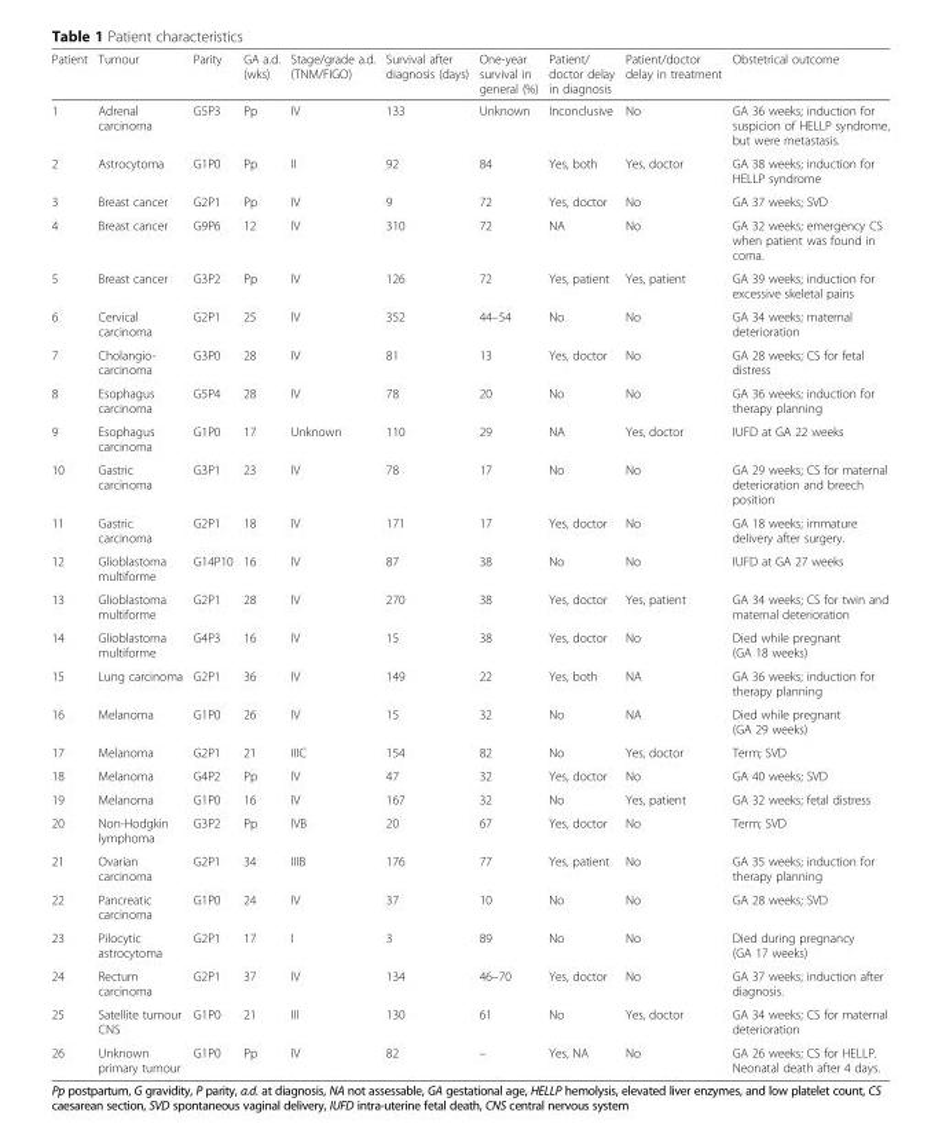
<table><thead><tr><td>Patient</td><td>Tumour</td><td>Parity</td><td>GA a.d. (wks)</td><td>Stage/grade a.d. (TNM/FIGO)</td><td>Survival after diagnosis (days)</td><td>One-year survival in general (%)</td><td>Patient/ doctor delay in diagnosis</td><td>Patient/doctor delay in treatment</td><td>Obstetrical outcome</td></tr></thead><tbody><tr><td>1</td><td>Adrenal carcinoma</td><td>G5P3</td><td>Pp</td><td>IV</td><td>133</td><td>Unknown</td><td>Inconclusive</td><td>No</td><td>GA 36 weeks; induction for suspicion of HELLP syndrome, but were metastasis.</td></tr><tr><td>2</td><td>Astrocytoma</td><td>G1P0</td><td>Pp</td><td>II</td><td>92</td><td>84</td><td>Yes, both</td><td>Yes, doctor</td><td>GA 38 weeks; induction for HELLP syndrome</td></tr><tr><td>3</td><td>Breast cancer</td><td>G2P1</td><td>Pp</td><td>IV</td><td>9</td><td>72</td><td>Yes, doctor</td><td>No</td><td>GA 37 weeks; SVD</td></tr><tr><td>4</td><td>Breast cancer</td><td>G9P6</td><td>12</td><td>IV</td><td>310</td><td>72</td><td>NA</td><td>No</td><td>GA 32 weeks; emergency CS when patient was found in coma.</td></tr><tr><td>5</td><td>Breast cancer</td><td>G3P2</td><td>Pp</td><td>IV</td><td>126</td><td>72</td><td>Yes, patient</td><td>Yes, patient</td><td>GA 39 weeks; induction for excessive skeletal pains</td></tr><tr><td>6</td><td>Cervical carcinoma</td><td>G2P1</td><td>25</td><td>IV</td><td>352</td><td>44–54</td><td>No</td><td>No</td><td>GA 34 weeks; maternal deterioration</td></tr><tr><td>7</td><td>Cholangio- carcinoma</td><td>G3P0</td><td>28</td><td>IV</td><td>81</td><td>13</td><td>Yes, doctor</td><td>No</td><td>GA 28 weeks; CS for fetal distress</td></tr><tr><td>8</td><td>Esophagus carcinoma</td><td>G5P4</td><td>28</td><td>IV</td><td>78</td><td>20</td><td>No</td><td>No</td><td>GA 36 weeks; induction for therapy planning</td></tr><tr><td>9</td><td>Esophagus carcinoma</td><td>G1P0</td><td>17</td><td>Unknown</td><td>110</td><td>29</td><td>NA</td><td>Yes, doctor</td><td>IUFD at GA 22 weeks</td></tr><tr><td>10</td><td>Gastric carcinoma</td><td>G3P1</td><td>23</td><td>IV</td><td>78</td><td>17</td><td>No</td><td>No</td><td>GA 29 weeks; CS for maternal deterioration and breech position</td></tr><tr><td>11</td><td>Gastric carcinoma</td><td>G2P1</td><td>18</td><td>IV</td><td>171</td><td>17</td><td>Yes, doctor</td><td>No</td><td>GA 18 weeks; immature delivery after surgery.</td></tr><tr><td>12</td><td>Glioblastoma multiforme</td><td>G14P10</td><td>16</td><td>IV</td><td>87</td><td>38</td><td>No</td><td>No</td><td>IUFD at GA 27 weeks</td></tr><tr><td>13</td><td>Glioblastoma multiforme</td><td>G2P1</td><td>28</td><td>IV</td><td>270</td><td>38</td><td>Yes, doctor</td><td>Yes, patient</td><td>GA 34 weeks; CS for twin and maternal deterioration</td></tr><tr><td>14</td><td>Glioblastoma multiforme</td><td>G4P3</td><td>16</td><td>IV</td><td>15</td><td>38</td><td>Yes, doctor</td><td>No</td><td>Died while pregnant (GA 18 weeks)</td></tr><tr><td>15</td><td>Lung carcinoma</td><td>G2P1</td><td>36</td><td>IV</td><td>149</td><td>22</td><td>Yes, both</td><td>NA</td><td>GA 36 weeks; induction for therapy planning</td></tr><tr><td>16</td><td>Melanoma</td><td>G1P0</td><td>26</td><td>IV</td><td>15</td><td>32</td><td>No</td><td>NA</td><td>Died while pregnant (GA 29 weeks)</td></tr><tr><td>17</td><td>Melanoma</td><td>G2P1</td><td>21</td><td>IIIC</td><td>154</td><td>82</td><td>No</td><td>Yes, doctor</td><td>Term; SVD</td></tr><tr><td>18</td><td>Melanoma</td><td>G4P2</td><td>Pp</td><td>IV</td><td>47</td><td>32</td><td>Yes, doctor</td><td>No</td><td>GA 40 weeks; SVD</td></tr><tr><td>19</td><td>Melanoma</td><td>G1P0</td><td>16</td><td>IV</td><td>167</td><td>32</td><td>No</td><td>Yes, patient</td><td>GA 32 weeks; fetal distress</td></tr><tr><td>20</td><td>Non-Hodgkin lymphoma</td><td>G3P2</td><td>Pp</td><td>IVB</td><td>20</td><td>67</td><td>Yes, doctor</td><td>No</td><td>Term; SVD</td></tr><tr><td>21</td><td>Ovarian carcinoma</td><td>G2P1</td><td>34</td><td>IIIB</td><td>176</td><td>77</td><td>Yes, patient</td><td>No</td><td>GA 35 weeks; induction for therapy planning</td></tr><tr><td>22</td><td>Pancreatic carcinoma</td><td>G1P0</td><td>24</td><td>IV</td><td>37</td><td>10</td><td>No</td><td>No</td><td>GA 28 weeks; SVD</td></tr><tr><td>23</td><td>Pilocytic astrocytoma</td><td>G2P1</td><td>17</td><td>I</td><td>3</td><td>89</td><td>No</td><td>No</td><td>Died during pregnancy (GA 17 weeks)</td></tr><tr><td>24</td><td>Rectum carcinoma</td><td>G2P1</td><td>37</td><td>IV</td><td>134</td><td>46–70</td><td>Yes, doctor</td><td>No</td><td>GA 37 weeks; induction after diagnosis.</td></tr><tr><td>25</td><td>Satellite tumour CNS</td><td>G1P0</td><td>21</td><td>III</td><td>130</td><td>61</td><td>No</td><td>Yes, doctor</td><td>GA 34 weeks; CS for maternal deterioration</td></tr><tr><td>26</td><td>Unknown primary tumour</td><td>G1P0</td><td>Pp</td><td>IV</td><td>82</td><td>–</td><td>Yes, NA</td><td>No</td><td>GA 26 weeks; CS for HELLP. Neonatal death after 4 days.</td></tr></tbody></table>